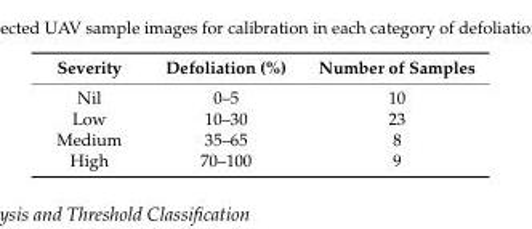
<table><thead><tr><td>Severity</td><td>Defoliation (%)</td><td>Number of Samples</td></tr></thead><tbody><tr><td>Nil</td><td>0–5</td><td>10</td></tr><tr><td>Low</td><td>10–30</td><td>23</td></tr><tr><td>Medium</td><td>35–65</td><td>8</td></tr><tr><td>High</td><td>70–100</td><td>9</td></tr></tbody></table>